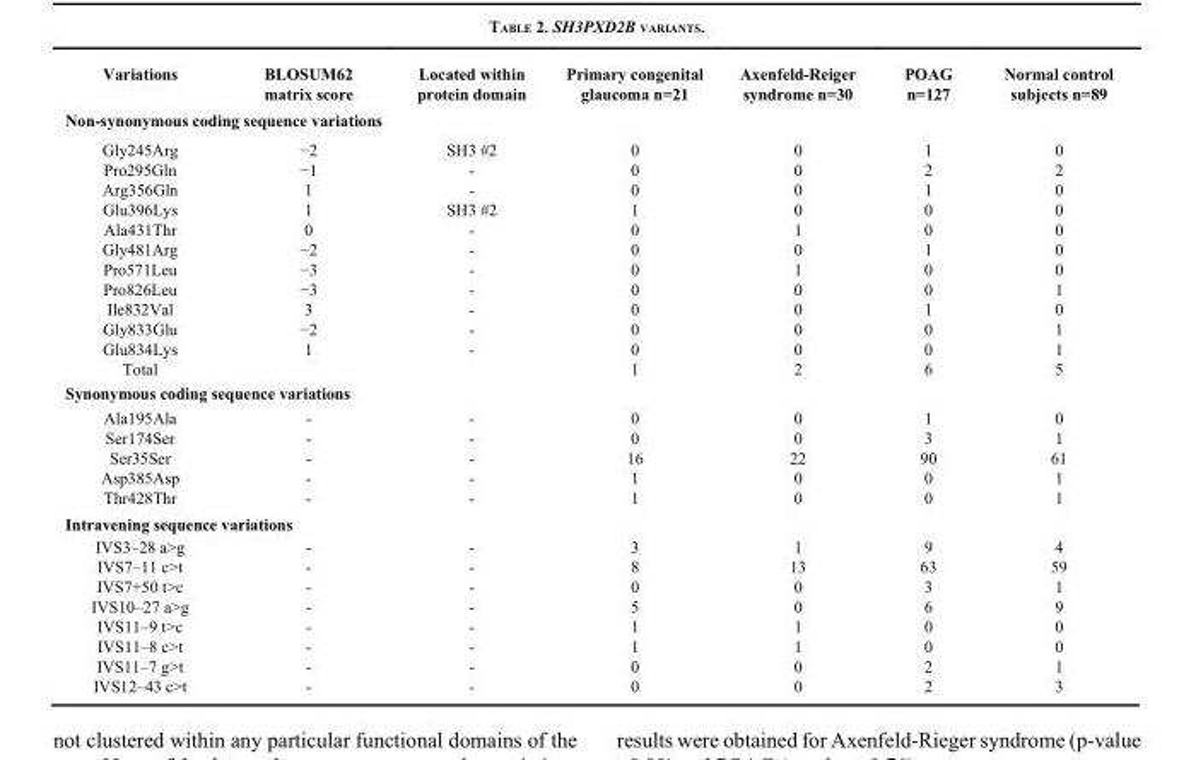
<table><thead><tr><td>Variations</td><td>BLOSUM62 matrix score</td><td>Located within protein domain</td><td>Primary congenital glaucoma n=21</td><td>Axenfeld-Reiger syndrome n=30</td><td>POAG n=127</td><td>Normal control subjects n=89</td></tr></thead><tbody><tr><td colspan="7">Non-synonymous coding sequence variations</td></tr><tr><td>Gly245Arg</td><td>−2</td><td>SH3 #2</td><td>0</td><td>0</td><td>1</td><td>0</td></tr><tr><td>Pro295Gln</td><td>−1</td><td>-</td><td>0</td><td>0</td><td>2</td><td>2</td></tr><tr><td>Arg356Gln</td><td>1</td><td>-</td><td>0</td><td>0</td><td>1</td><td>0</td></tr><tr><td>Glu396Lys</td><td>1</td><td>SH3 #2</td><td>1</td><td>0</td><td>0</td><td>0</td></tr><tr><td>Ala431Thr</td><td>0</td><td>-</td><td>0</td><td>1</td><td>0</td><td>0</td></tr><tr><td>Gly481Arg</td><td>−2</td><td>-</td><td>0</td><td>0</td><td>1</td><td>0</td></tr><tr><td>Pro571Leu</td><td>−3</td><td>-</td><td>0</td><td>1</td><td>0</td><td>0</td></tr><tr><td>Pro826Leu</td><td>−3</td><td>-</td><td>0</td><td>0</td><td>0</td><td>1</td></tr><tr><td>Ile832Val</td><td>3</td><td>-</td><td>0</td><td>0</td><td>1</td><td>0</td></tr><tr><td>Gly833Glu</td><td>−2</td><td>-</td><td>0</td><td>0</td><td>0</td><td>1</td></tr><tr><td>Glu834Lys</td><td>1</td><td>-</td><td>0</td><td>0</td><td>0</td><td>1</td></tr><tr><td>Total</td><td></td><td></td><td>1</td><td>2</td><td>6</td><td>5</td></tr><tr><td colspan="7">Synonymous coding sequence variations</td></tr><tr><td>Ala195Ala</td><td>-</td><td>-</td><td>0</td><td>0</td><td>1</td><td>0</td></tr><tr><td>Ser174Ser</td><td>-</td><td>-</td><td>0</td><td>0</td><td>3</td><td>1</td></tr><tr><td>Ser35Ser</td><td>-</td><td>-</td><td>16</td><td>22</td><td>90</td><td>61</td></tr><tr><td>Asp385Asp</td><td>-</td><td>-</td><td>1</td><td>0</td><td>0</td><td>1</td></tr><tr><td>Thr428Thr</td><td>-</td><td>-</td><td>1</td><td>0</td><td>0</td><td>1</td></tr><tr><td colspan="7">Intravening sequence variations</td></tr><tr><td>IVS3–28 a&gt;g</td><td>-</td><td>-</td><td>3</td><td>1</td><td>9</td><td>4</td></tr><tr><td>IVS7–11 c&gt;t</td><td>-</td><td>-</td><td>8</td><td>13</td><td>63</td><td>59</td></tr><tr><td>IVS7+50 t&gt;c</td><td>-</td><td>-</td><td>0</td><td>0</td><td>3</td><td>1</td></tr><tr><td>IVS10–27 a&gt;g</td><td>-</td><td>-</td><td>5</td><td>0</td><td>6</td><td>9</td></tr><tr><td>IVS11–9 t&gt;c</td><td>-</td><td>-</td><td>1</td><td>1</td><td>0</td><td>0</td></tr><tr><td>IVS11–8 c&gt;t</td><td>-</td><td>-</td><td>1</td><td>1</td><td>0</td><td>0</td></tr><tr><td>IVS11–7 g&gt;t</td><td>-</td><td>-</td><td>0</td><td>0</td><td>2</td><td>1</td></tr><tr><td>IVS12–43 c&gt;t</td><td>-</td><td>-</td><td>0</td><td>0</td><td>2</td><td>3</td></tr></tbody></table>